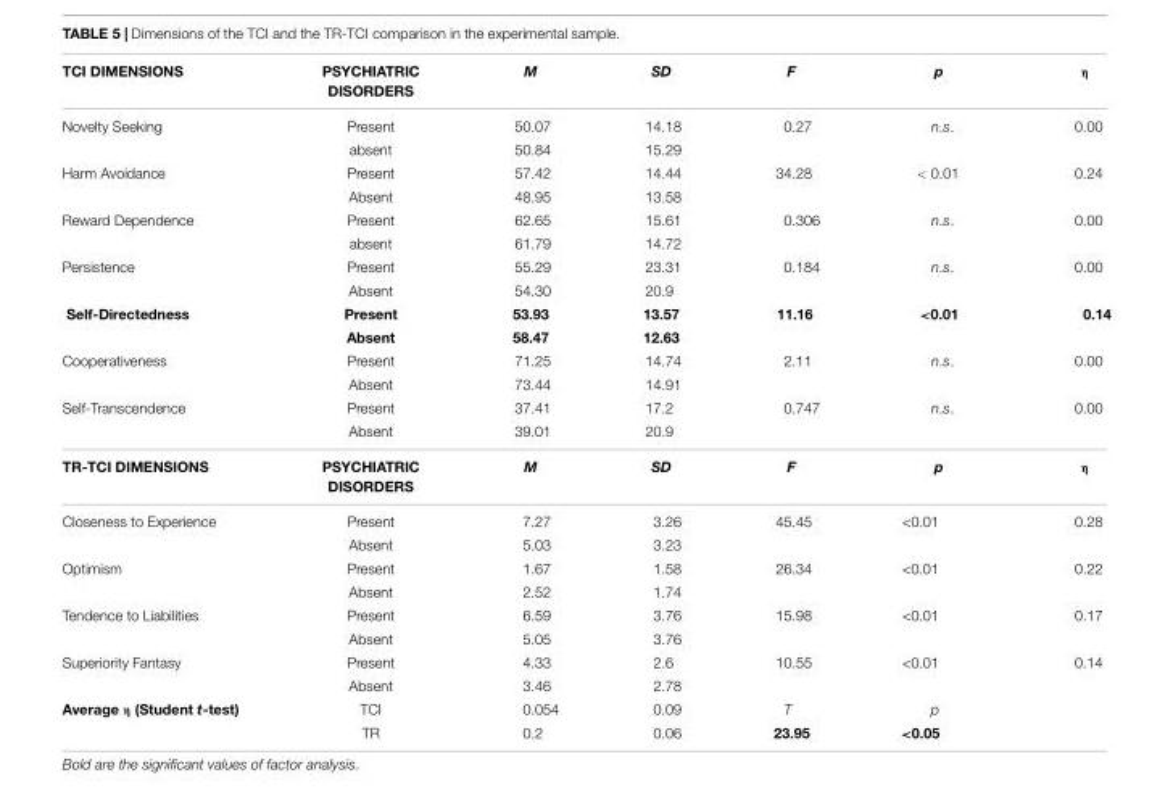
<table><thead><tr><td>TCI DIMENSIONS</td><td>PSYCHIATRIC DISORDERS</td><td>M</td><td>SD</td><td>F</td><td>p</td><td>η</td></tr></thead><tbody><tr><td rowspan="2">Novelty Seeking</td><td>Present</td><td>50.07</td><td>14.18</td><td>0.27</td><td>n.s.</td><td>0.00</td></tr><tr><td>absent</td><td>50.84</td><td>15.29</td><td></td><td></td><td></td></tr><tr><td rowspan="2">Harm Avoidance</td><td>Present</td><td>57.42</td><td>14.44</td><td>34.28</td><td>&lt; 0.01</td><td>0.24</td></tr><tr><td>Absent</td><td>48.95</td><td>13.58</td><td></td><td></td><td></td></tr><tr><td rowspan="2">Reward Dependence</td><td>Present</td><td>62.65</td><td>15.61</td><td>0.306</td><td>n.s.</td><td>0.00</td></tr><tr><td>absent</td><td>61.79</td><td>14.72</td><td></td><td></td><td></td></tr><tr><td rowspan="2">Persistence</td><td>Present</td><td>55.29</td><td>23.31</td><td>0.184</td><td>n.s.</td><td>0.00</td></tr><tr><td>Absent</td><td>54.30</td><td>20.9</td><td></td><td></td><td></td></tr><tr><td rowspan="2">Self-Directedness</td><td>Present</td><td>53.93</td><td>13.57</td><td>11.16</td><td>&lt;0.01</td><td>0.14</td></tr><tr><td>Absent</td><td>58.47</td><td>12.63</td><td></td><td></td><td></td></tr><tr><td rowspan="2">Cooperativeness</td><td>Present</td><td>71.25</td><td>14.74</td><td>2.11</td><td>n.s.</td><td>0.00</td></tr><tr><td>Absent</td><td>73.44</td><td>14.91</td><td></td><td></td><td></td></tr><tr><td rowspan="2">Self-Transcendence</td><td>Present</td><td>37.41</td><td>17.2</td><td>0.747</td><td>n.s.</td><td>0.00</td></tr><tr><td>Absent</td><td>39.01</td><td>20.9</td><td></td><td></td><td></td></tr><tr><td>TR-TCI DIMENSIONS</td><td>PSYCHIATRIC DISORDERS</td><td>M</td><td>SD</td><td>F</td><td>p</td><td>η</td></tr><tr><td rowspan="2">Closeness to Experience</td><td>Present</td><td>7.27</td><td>3.26</td><td>45.45</td><td>&lt;0.01</td><td>0.28</td></tr><tr><td>Absent</td><td>5.03</td><td>3.23</td><td></td><td></td><td></td></tr><tr><td rowspan="2">Optimism</td><td>Present</td><td>1.67</td><td>1.58</td><td>26.34</td><td>&lt;0.01</td><td>0.22</td></tr><tr><td>Absent</td><td>2.52</td><td>1.74</td><td></td><td></td><td></td></tr><tr><td rowspan="2">Tendence to Liabilities</td><td>Present</td><td>6.59</td><td>3.76</td><td>15.98</td><td>&lt;0.01</td><td>0.17</td></tr><tr><td>Absent</td><td>5.05</td><td>3.76</td><td></td><td></td><td></td></tr><tr><td rowspan="2">Superiority Fantasy</td><td>Present</td><td>4.33</td><td>2.6</td><td>10.55</td><td>&lt;0.01</td><td>0.14</td></tr><tr><td>Absent</td><td>3.46</td><td>2.78</td><td></td><td></td><td></td></tr><tr><td rowspan="2">Average η (Student t-test)</td><td>TCI</td><td>0.054</td><td>0.09</td><td>T</td><td>p</td><td></td></tr><tr><td>TR</td><td>0.2</td><td>0.06</td><td>23.95</td><td>&lt;0.05</td><td></td></tr></tbody></table>